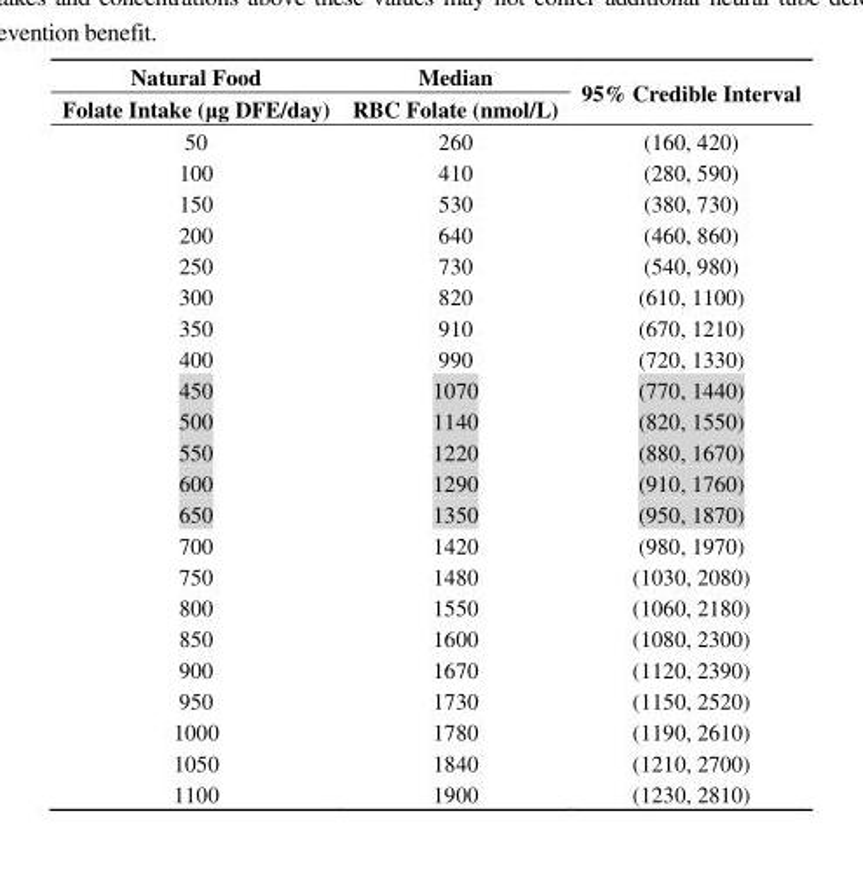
<table><thead><tr><td rowspan="2">Natural Food Folate Intake (μg DFE/day)</td><td rowspan="2">Median RBC Folate (nmol/L)</td><td rowspan="2">95% Credible Interval</td></tr><tr></tr></thead><tbody><tr><td>50</td><td>260</td><td>(160, 420)</td></tr><tr><td>100</td><td>410</td><td>(280, 590)</td></tr><tr><td>150</td><td>530</td><td>(380, 730)</td></tr><tr><td>200</td><td>640</td><td>(460, 860)</td></tr><tr><td>250</td><td>730</td><td>(540, 980)</td></tr><tr><td>300</td><td>820</td><td>(610, 1100)</td></tr><tr><td>350</td><td>910</td><td>(670, 1210)</td></tr><tr><td>400</td><td>990</td><td>(720, 1330)</td></tr><tr><td>450</td><td>1070</td><td>(770, 1440)</td></tr><tr><td>500</td><td>1140</td><td>(820, 1550)</td></tr><tr><td>550</td><td>1220</td><td>(880, 1670)</td></tr><tr><td>600</td><td>1290</td><td>(910, 1760)</td></tr><tr><td>650</td><td>1350</td><td>(950, 1870)</td></tr><tr><td>700</td><td>1420</td><td>(980, 1970)</td></tr><tr><td>750</td><td>1480</td><td>(1030, 2080)</td></tr><tr><td>800</td><td>1550</td><td>(1060, 2180)</td></tr><tr><td>850</td><td>1600</td><td>(1080, 2300)</td></tr><tr><td>900</td><td>1670</td><td>(1120, 2390)</td></tr><tr><td>950</td><td>1730</td><td>(1150, 2520)</td></tr><tr><td>1000</td><td>1780</td><td>(1190, 2610)</td></tr><tr><td>1050</td><td>1840</td><td>(1210, 2700)</td></tr><tr><td>1100</td><td>1900</td><td>(1230, 2810)</td></tr></tbody></table>